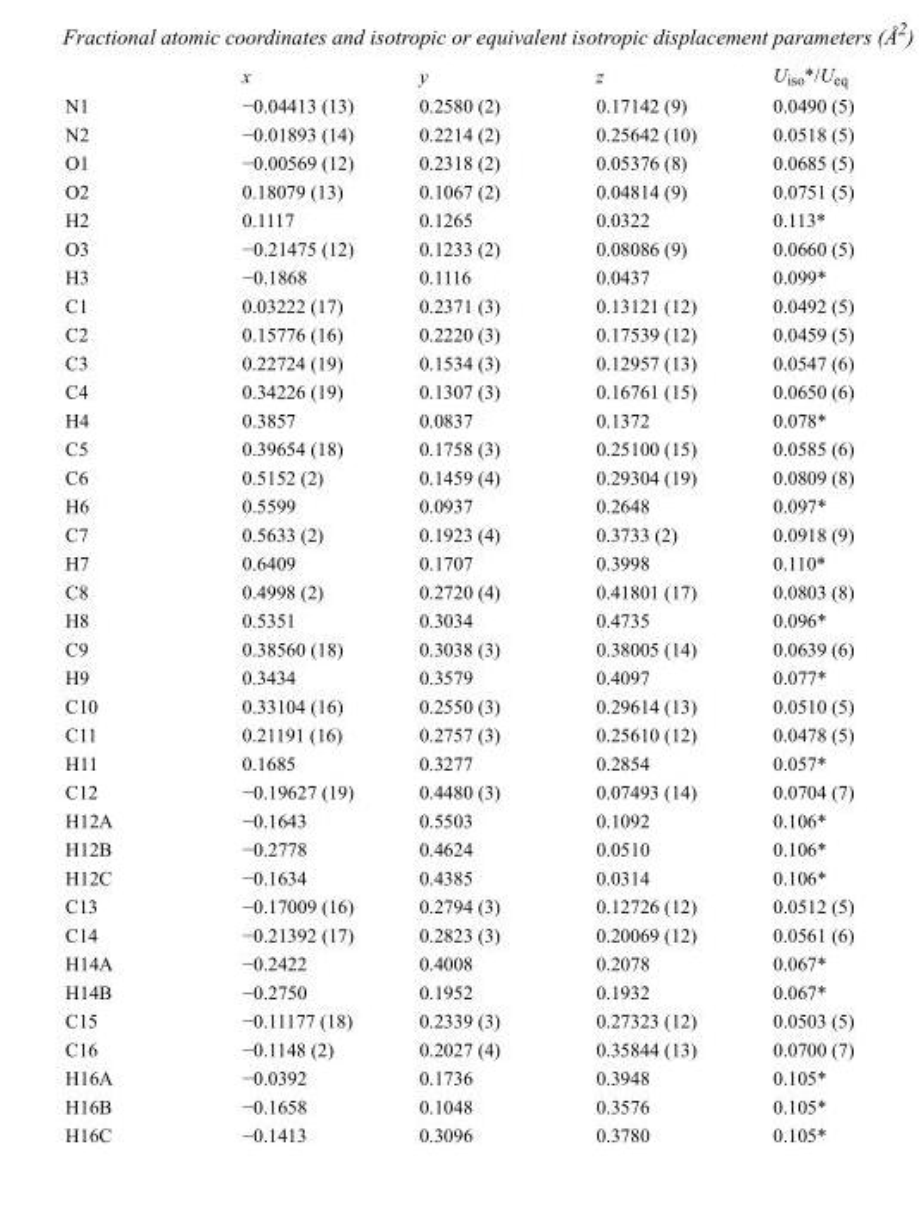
<table><thead><tr><td></td><td>x</td><td>y</td><td>z</td><td>U<sub>iso</sub>*/U<sub>eq</sub></td></tr></thead><tbody><tr><td>N1</td><td>−0.04413 (13)</td><td>0.2580 (2)</td><td>0.17142 (9)</td><td>0.0490 (5)</td></tr><tr><td>N2</td><td>−0.01893 (14)</td><td>0.2214 (2)</td><td>0.25642 (10)</td><td>0.0518 (5)</td></tr><tr><td>O1</td><td>−0.00569 (12)</td><td>0.2318 (2)</td><td>0.05376 (8)</td><td>0.0685 (5)</td></tr><tr><td>O2</td><td>0.18079 (13)</td><td>0.1067 (2)</td><td>0.04814 (9)</td><td>0.0751 (5)</td></tr><tr><td>H2</td><td>0.1117</td><td>0.1265</td><td>0.0322</td><td>0.113*</td></tr><tr><td>O3</td><td>−0.21475 (12)</td><td>0.1233 (2)</td><td>0.08086 (9)</td><td>0.0660 (5)</td></tr><tr><td>H3</td><td>−0.1868</td><td>0.1116</td><td>0.0437</td><td>0.099*</td></tr><tr><td>C1</td><td>0.03222 (17)</td><td>0.2371 (3)</td><td>0.13121 (12)</td><td>0.0492 (5)</td></tr><tr><td>C2</td><td>0.15776 (16)</td><td>0.2220 (3)</td><td>0.17539 (12)</td><td>0.0459 (5)</td></tr><tr><td>C3</td><td>0.22724 (19)</td><td>0.1534 (3)</td><td>0.12957 (13)</td><td>0.0547 (6)</td></tr><tr><td>C4</td><td>0.34226 (19)</td><td>0.1307 (3)</td><td>0.16761 (15)</td><td>0.0650 (6)</td></tr><tr><td>H4</td><td>0.3857</td><td>0.0837</td><td>0.1372</td><td>0.078*</td></tr><tr><td>C5</td><td>0.39654 (18)</td><td>0.1758 (3)</td><td>0.25100 (15)</td><td>0.0585 (6)</td></tr><tr><td>C6</td><td>0.5152 (2)</td><td>0.1459 (4)</td><td>0.29304 (19)</td><td>0.0809 (8)</td></tr><tr><td>H6</td><td>0.5599</td><td>0.0937</td><td>0.2648</td><td>0.097*</td></tr><tr><td>C7</td><td>0.5633 (2)</td><td>0.1923 (4)</td><td>0.3733 (2)</td><td>0.0918 (9)</td></tr><tr><td>H7</td><td>0.6409</td><td>0.1707</td><td>0.3998</td><td>0.110*</td></tr><tr><td>C8</td><td>0.4998 (2)</td><td>0.2720 (4)</td><td>0.41801 (17)</td><td>0.0803 (8)</td></tr><tr><td>H8</td><td>0.5351</td><td>0.3034</td><td>0.4735</td><td>0.096*</td></tr><tr><td>C9</td><td>0.38560 (18)</td><td>0.3038 (3)</td><td>0.38005 (14)</td><td>0.0639 (6)</td></tr><tr><td>H9</td><td>0.3434</td><td>0.3579</td><td>0.4097</td><td>0.077*</td></tr><tr><td>C10</td><td>0.33104 (16)</td><td>0.2550 (3)</td><td>0.29614 (13)</td><td>0.0510 (5)</td></tr><tr><td>C11</td><td>0.21191 (16)</td><td>0.2757 (3)</td><td>0.25610 (12)</td><td>0.0478 (5)</td></tr><tr><td>H11</td><td>0.1685</td><td>0.3277</td><td>0.2854</td><td>0.057*</td></tr><tr><td>C12</td><td>−0.19627 (19)</td><td>0.4480 (3)</td><td>0.07493 (14)</td><td>0.0704 (7)</td></tr><tr><td>H12A</td><td>−0.1643</td><td>0.5503</td><td>0.1092</td><td>0.106*</td></tr><tr><td>H12B</td><td>−0.2778</td><td>0.4624</td><td>0.0510</td><td>0.106*</td></tr><tr><td>H12C</td><td>−0.1634</td><td>0.4385</td><td>0.0314</td><td>0.106*</td></tr><tr><td>C13</td><td>−0.17009 (16)</td><td>0.2794 (3)</td><td>0.12726 (12)</td><td>0.0512 (5)</td></tr><tr><td>C14</td><td>−0.21392 (17)</td><td>0.2823 (3)</td><td>0.20069 (12)</td><td>0.0561 (6)</td></tr><tr><td>H14A</td><td>−0.2422</td><td>0.4008</td><td>0.2078</td><td>0.067*</td></tr><tr><td>H14B</td><td>−0.2750</td><td>0.1952</td><td>0.1932</td><td>0.067*</td></tr><tr><td>C15</td><td>−0.11177 (18)</td><td>0.2339 (3)</td><td>0.27323 (12)</td><td>0.0503 (5)</td></tr><tr><td>C16</td><td>−0.1148 (2)</td><td>0.2027 (4)</td><td>0.35844 (13)</td><td>0.0700 (7)</td></tr><tr><td>H16A</td><td>−0.0392</td><td>0.1736</td><td>0.3948</td><td>0.105*</td></tr><tr><td>H16B</td><td>−0.1658</td><td>0.1048</td><td>0.3576</td><td>0.105*</td></tr><tr><td>H16C</td><td>−0.1413</td><td>0.3096</td><td>0.3780</td><td>0.105*</td></tr></tbody></table>